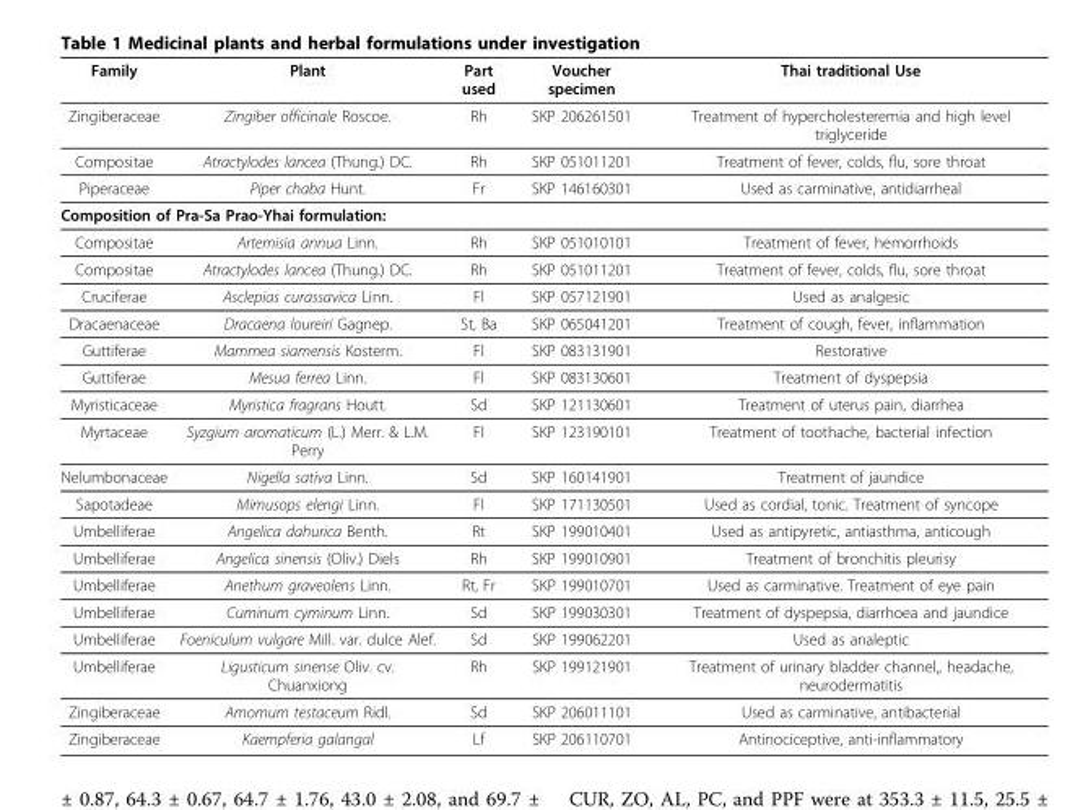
<table><thead><tr><td>Family</td><td>Plant</td><td>Part used</td><td>Voucher specimen</td><td>Thai traditional Use</td></tr></thead><tbody><tr><td>Zingiberaceae</td><td>Zingiber officinale Roscoe.</td><td>Rh</td><td>SKP 206261501</td><td>Treatment of hypercholesteremia and high level triglyceride</td></tr><tr><td>Compositae</td><td>Atractylodes lancea (Thung.) DC.</td><td>Rh</td><td>SKP 051011201</td><td>Treatment of fever, colds, flu, sore throat</td></tr><tr><td>Piperaceae</td><td>Piper chaba Hunt.</td><td>Fr</td><td>SKP 146160301</td><td>Used as carminative, antidiarrheal</td></tr><tr><td colspan="5">Composition of Pra-Sa Prao-Yhai formulation:</td></tr><tr><td>Compositae</td><td>Artemisia annua Linn.</td><td>Rh</td><td>SKP 051010101</td><td>Treatment of fever, hemorrhoids</td></tr><tr><td>Compositae</td><td>Atractylodes lancea (Thung.) DC.</td><td>Rh</td><td>SKP 051011201</td><td>Treatment of fever, colds, flu, sore throat</td></tr><tr><td>Cruciferae</td><td>Asclepias curassavica Linn.</td><td>Fl</td><td>SKP 057121901</td><td>Used as analgesic</td></tr><tr><td>Dracaenaceae</td><td>Dracaena loureiri Gagnep.</td><td>St, Ba</td><td>SKP 065041201</td><td>Treatment of cough, fever, inflammation</td></tr><tr><td>Guttiferae</td><td>Mammea siamensis Kosterm.</td><td>Fl</td><td>SKP 083131901</td><td>Restorative</td></tr><tr><td>Guttiferae</td><td>Mesua ferrea Linn.</td><td>Fl</td><td>SKP 083130601</td><td>Treatment of dyspepsia</td></tr><tr><td>Myristicaceae</td><td>Myristica fragrans Houtt.</td><td>Sd</td><td>SKP 121130601</td><td>Treatment of uterus pain, diarrhea</td></tr><tr><td>Myrtaceae</td><td>Syzgium aromaticum (L.) Merr. &amp; L.M. Perry</td><td>Fl</td><td>SKP 123190101</td><td>Treatment of toothache, bacterial infection</td></tr><tr><td>Nelumbonaceae</td><td>Nigella sativa Linn.</td><td>Sd</td><td>SKP 160141901</td><td>Treatment of jaundice</td></tr><tr><td>Sapotadeae</td><td>Mimusops elengi Linn.</td><td>Fl</td><td>SKP 171130501</td><td>Used as cordial, tonic. Treatment of syncope</td></tr><tr><td>Umbelliferae</td><td>Angelica dahurica Benth.</td><td>Rt</td><td>SKP 199010401</td><td>Used as antipyretic, antiasthma, anticough</td></tr><tr><td>Umbelliferae</td><td>Angelica sinensis (Oliv.) Diels</td><td>Rh</td><td>SKP 199010901</td><td>Treatment of bronchitis pleurisy</td></tr><tr><td>Umbelliferae</td><td>Anethum graveolens Linn.</td><td>Rt, Fr</td><td>SKP 199010701</td><td>Used as carminative. Treatment of eye pain</td></tr><tr><td>Umbelliferae</td><td>Cuminum cyminum Linn.</td><td>Sd</td><td>SKP 199030301</td><td>Treatment of dyspepsia, diarrhoea and jaundice</td></tr><tr><td>Umbelliferae</td><td>Foeniculum vulgare Mill. var. dulce Alef.</td><td>Sd</td><td>SKP 199062201</td><td>Used as analeptic</td></tr><tr><td>Umbelliferae</td><td>Ligusticum sinense Oliv. cv. Chuanxiong</td><td>Rh</td><td>SKP 199121901</td><td>Treatment of urinary bladder channel,, headache, neurodermatitis</td></tr><tr><td>Zingiberaceae</td><td>Amomum testaceum Ridl.</td><td>Sd</td><td>SKP 206011101</td><td>Used as carminative, antibacterial</td></tr><tr><td>Zingiberaceae</td><td>Kaempferia galangal</td><td>Lf</td><td>SKP 206110701</td><td>Antinociceptive, anti-inflammatory</td></tr></tbody></table>